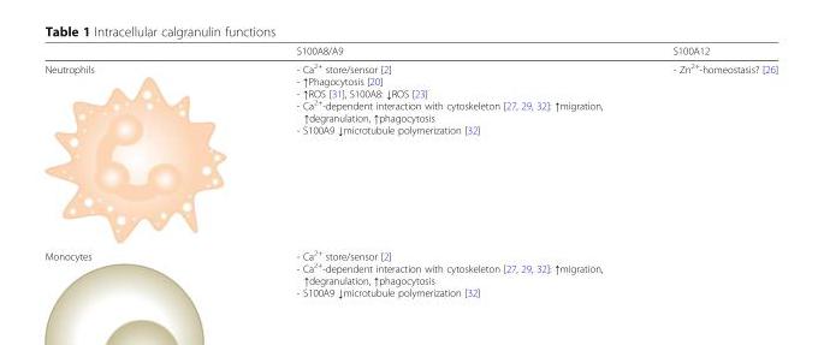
<table><thead><tr><td></td><td>S100A8/A9</td><td>S100A12</td></tr></thead><tbody><tr><td>Neutrophils</td><td>- Ca<sup>2+</sup> store/sensor [2] - ↑Phagocytosis [20] - ↑ROS [31], S100A8: ↓ROS [23] - Ca<sup>2+</sup>-dependent interaction with cytoskeleton [27, 29, 32]: ↑migration, ↑degranulation, ↑phagocytosis - S100A9 ↓microtubule polymerization [32]</td><td>- Zn<sup>2+</sup>-homeostasis? [26]</td></tr><tr><td>Monocytes</td><td>- Ca<sup>2+</sup> store/sensor [2] - Ca<sup>2+</sup>-dependent interaction with cytoskeleton [27, 29, 32]: ↑migration, ↑degranulation, ↑phagocytosis - S100A9 ↓microtubule polymerization [32]</td><td></td></tr></tbody></table>